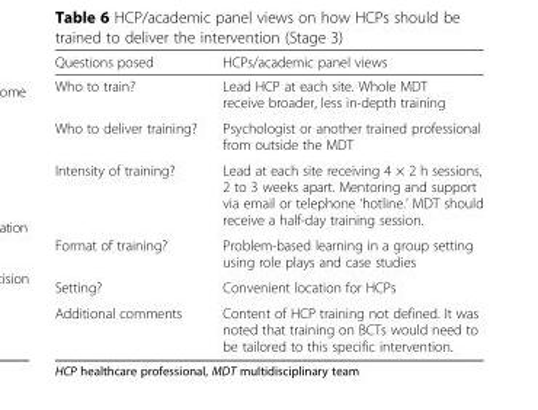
<table><thead><tr><td>Questions posed</td><td>HCPs/academic panel views</td></tr></thead><tbody><tr><td>Who to train?</td><td>Lead HCP at each site. Whole MDT receive broader, less in-depth training</td></tr><tr><td>Who to deliver training?</td><td>Psychologist or another trained professional from outside the MDT</td></tr><tr><td>Intensity of training?</td><td>Lead at each site receiving 4 × 2 h sessions, 2 to 3 weeks apart. Mentoring and support via email or telephone ‘hotline.’ MDT should receive a half-day training session.</td></tr><tr><td>Format of training?</td><td>Problem-based learning in a group setting using role plays and case studies</td></tr><tr><td>Setting?</td><td>Convenient location for HCPs</td></tr><tr><td>Additional comments</td><td>Content of HCP training not defined. It was noted that training on BCTs would need to be tailored to this specific intervention.</td></tr></tbody></table>